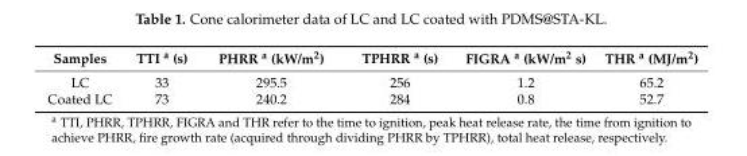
<table><thead><tr><td>Samples</td><td>TTI <sup>a</sup> (s)</td><td>PHRR <sup>a</sup> (kW/m<sup>2</sup>)</td><td>TPHRR <sup>a</sup> (s)</td><td>FIGRA <sup>a</sup> (kW/m<sup>2</sup> s)</td><td>THR <sup>a</sup> (MJ/m<sup>2</sup>)</td></tr></thead><tbody><tr><td>LC</td><td>33</td><td>295.5</td><td>256</td><td>1.2</td><td>65.2</td></tr><tr><td>Coated LC</td><td>73</td><td>240.2</td><td>284</td><td>0.8</td><td>52.7</td></tr></tbody></table>